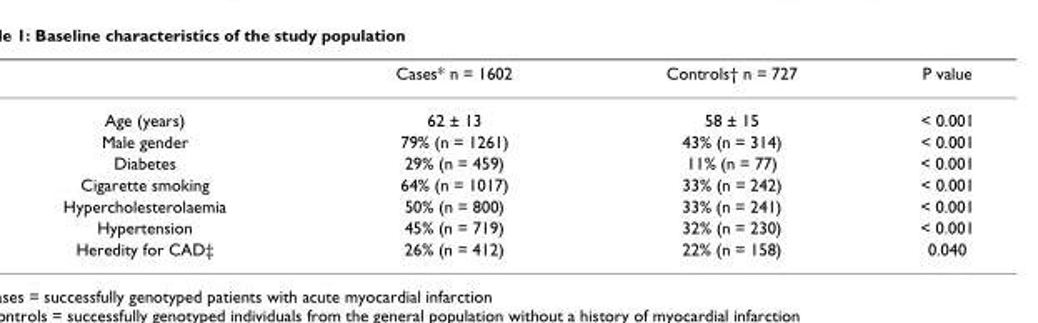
<table><thead><tr><td></td><td>Cases* n = 1602</td><td>Controls† n = 727</td><td>P value</td></tr></thead><tbody><tr><td>Age (years)</td><td>62 ± 13</td><td>58 ± 15</td><td>&lt; 0.001</td></tr><tr><td>Male gender</td><td>79% (n = 1261)</td><td>43% (n = 314)</td><td>&lt; 0.001</td></tr><tr><td>Diabetes</td><td>29% (n = 459)</td><td>11% (n = 77)</td><td>&lt; 0.001</td></tr><tr><td>Cigarette smoking</td><td>64% (n = 1017)</td><td>33% (n = 242)</td><td>&lt; 0.001</td></tr><tr><td>Hypercholesterolaemia</td><td>50% (n = 800)</td><td>33% (n = 241)</td><td>&lt; 0.001</td></tr><tr><td>Hypertension</td><td>45% (n = 719)</td><td>32% (n = 230)</td><td>&lt; 0.001</td></tr><tr><td>Heredity for CAD‡</td><td>26% (n = 412)</td><td>22% (n = 158)</td><td>0.040</td></tr></tbody></table>